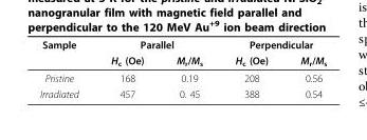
<table><thead><tr><td rowspan="2">Sample</td><td colspan="2">Parallel</td><td colspan="2">Perpendicular</td></tr><tr><td>H<sub>c</sub> (Oe)</td><td>M<sub>r</sub>/M<sub>s</sub></td><td>H<sub>c</sub> (Oe)</td><td>M<sub>r</sub>/M<sub>s</sub></td></tr></thead><tbody><tr><td>Pristine</td><td>168</td><td>0.19</td><td>208</td><td>0.56</td></tr><tr><td>Irradiated</td><td>457</td><td>0. 45</td><td>388</td><td>0.54</td></tr></tbody></table>